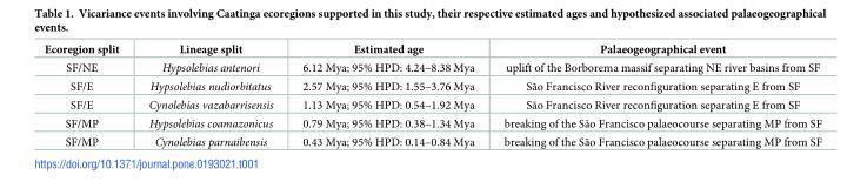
<table><thead><tr><td>Ecoregion split</td><td>Lineage split</td><td>Estimated age</td><td>Palaeogeographical event</td></tr></thead><tbody><tr><td>SF/NE</td><td>Hypsolebias antenori</td><td>6.12 Mya; 95% HPD: 4.24–8.38 Mya</td><td>uplift of the Borborema massif separating NE river basins from SF</td></tr><tr><td>SF/E</td><td>Hypsolebias nudiorbitatus</td><td>2.57 Mya; 95% HPD: 1.55–3.76 Mya</td><td>São Francisco River reconfiguration separating E from SF</td></tr><tr><td>SF/E</td><td>Cynolebias vazabarrisensis</td><td>1.13 Mya; 95% HPD: 0.54–1.92 Mya</td><td>São Francisco River reconfiguration separating E from SF</td></tr><tr><td>SF/MP</td><td>Hypsolebias coamazonicus</td><td>0.79 Mya; 95% HPD: 0.38–1.34 Mya</td><td>breaking of the São Francisco palaeocourse separating MP from SF</td></tr><tr><td>SF/MP</td><td>Cynolebias parnaibensis</td><td>0.43 Mya; 95% HPD: 0.14–0.84 Mya</td><td>breaking of the São Francisco palaeocourse separating MP from SF</td></tr></tbody></table>